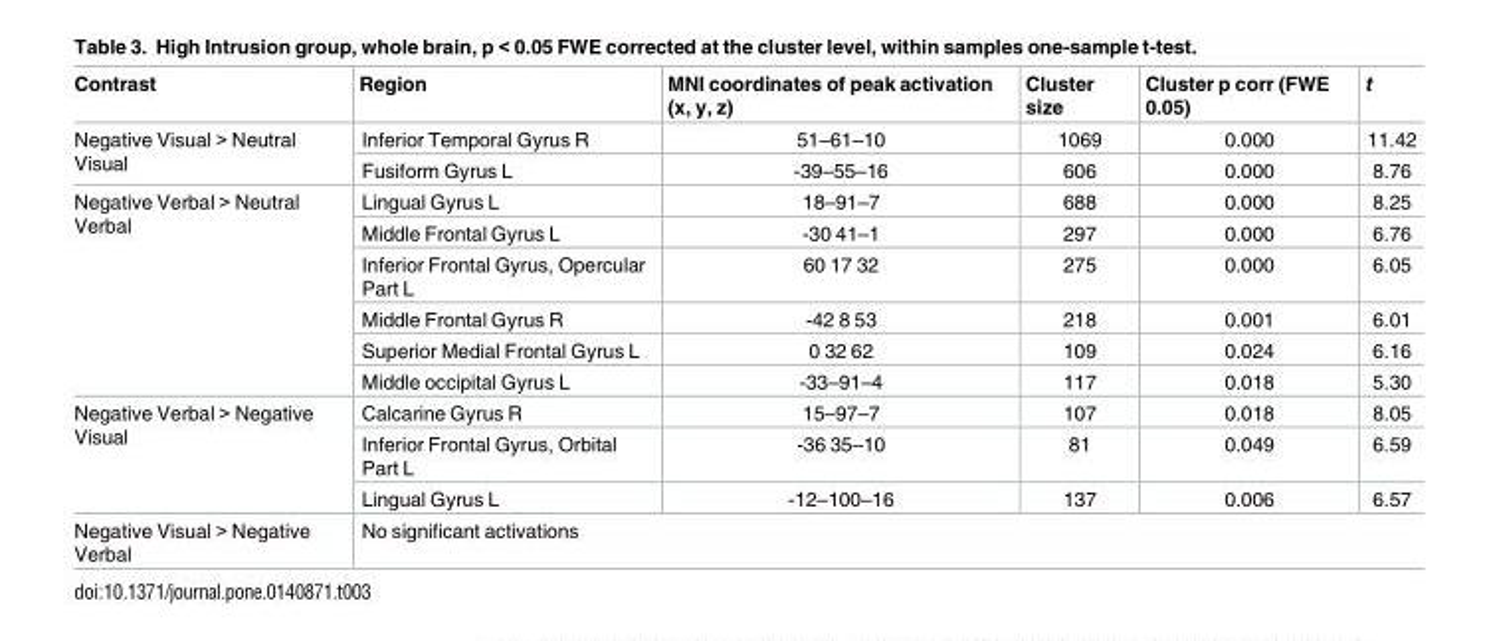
<table><thead><tr><td>Contrast</td><td>Region</td><td>MNI coordinates of peak activation (x, y, z)</td><td>Cluster size</td><td>Cluster p corr (FWE 0.05)</td><td>t</td></tr></thead><tbody><tr><td rowspan="2">Negative Visual &gt; Neutral Visual</td><td>Inferior Temporal Gyrus R</td><td>51–61–10</td><td>1069</td><td>0.000</td><td>11.42</td></tr><tr><td>Fusiform Gyrus L</td><td>-39–55–16</td><td>606</td><td>0.000</td><td>8.76</td></tr><tr><td rowspan="6">Negative Verbal &gt; Neutral Verbal</td><td>Lingual Gyrus L</td><td>18–91–7</td><td>688</td><td>0.000</td><td>8.25</td></tr><tr><td>Middle Frontal Gyrus L</td><td>-30 41–1</td><td>297</td><td>0.000</td><td>6.76</td></tr><tr><td>Inferior Frontal Gyrus, Opercular Part L</td><td>60 17 32</td><td>275</td><td>0.000</td><td>6.05</td></tr><tr><td>Middle Frontal Gyrus R</td><td>-42 8 53</td><td>218</td><td>0.001</td><td>6.01</td></tr><tr><td>Superior Medial Frontal Gyrus L</td><td>0 32 62</td><td>109</td><td>0.024</td><td>6.16</td></tr><tr><td>Middle occipital Gyrus L</td><td>-33–91–4</td><td>117</td><td>0.018</td><td>5.30</td></tr><tr><td rowspan="3">Negative Verbal &gt; Negative Visual</td><td>Calcarine Gyrus R</td><td>15–97–7</td><td>107</td><td>0.018</td><td>8.05</td></tr><tr><td>Inferior Frontal Gyrus, Orbital Part L</td><td>-36 35–10</td><td>81</td><td>0.049</td><td>6.59</td></tr><tr><td>Lingual Gyrus L</td><td>-12–100–16</td><td>137</td><td>0.006</td><td>6.57</td></tr><tr><td>Negative Visual &gt; Negative Verbal</td><td colspan="5">No significant activations</td></tr></tbody></table>